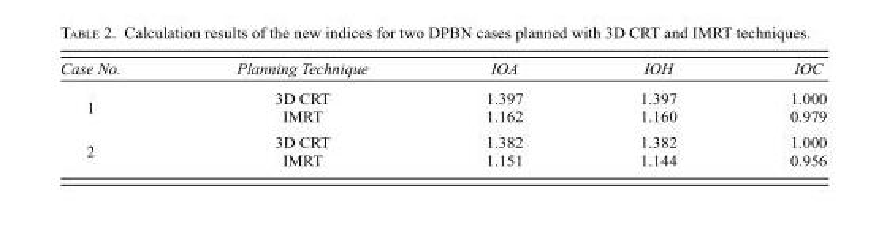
<table><thead><tr><td>Case No.</td><td>Planning Technique</td><td>IOA</td><td>IOH</td><td>IOC</td></tr></thead><tbody><tr><td rowspan="2">1</td><td>3D CRT</td><td>1.397</td><td>1.397</td><td>1.000</td></tr><tr><td>IMRT</td><td>1.162</td><td>1.160</td><td>0.979</td></tr><tr><td rowspan="2">2</td><td>3D CRT</td><td>1.382</td><td>1.382</td><td>1.000</td></tr><tr><td>IMRT</td><td>1.151</td><td>1.144</td><td>0.956</td></tr></tbody></table>